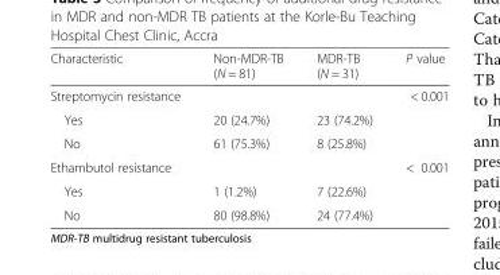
<table><thead><tr><td>Characteristic</td><td>Non-MDR-TB (N = 81)</td><td>MDR-TB (N = 31)</td><td>P value</td></tr></thead><tbody><tr><td>Streptomycin resistance</td><td></td><td></td><td>&lt; 0.001</td></tr><tr><td>Yes</td><td>20 (24.7%)</td><td>23 (74.2%)</td><td></td></tr><tr><td>No</td><td>61 (75.3%)</td><td>8 (25.8%)</td><td></td></tr><tr><td>Ethambutol resistance</td><td></td><td></td><td>&lt; 0.001</td></tr><tr><td>Yes</td><td>1 (1.2%)</td><td>7 (22.6%)</td><td></td></tr><tr><td>No</td><td>80 (98.8%)</td><td>24 (77.4%)</td><td></td></tr></tbody></table>